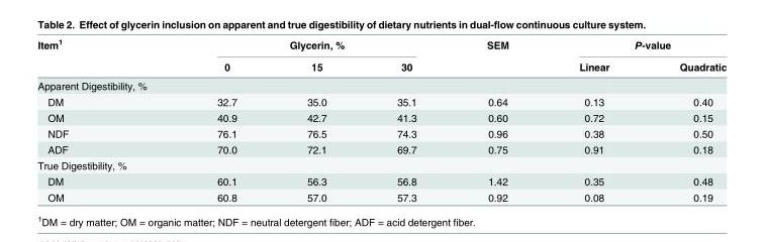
<table><thead><tr><td rowspan="2">Item<sup>1</sup></td><td colspan="3">Glycerin, %</td><td rowspan="2">SEM</td><td colspan="2">P-value</td></tr><tr><td>0</td><td>15</td><td>30</td><td>Linear</td><td>Quadratic</td></tr></thead><tbody><tr><td colspan="7">Apparent Digestibility, %</td></tr><tr><td>DM</td><td>32.7</td><td>35.0</td><td>35.1</td><td>0.64</td><td>0.13</td><td>0.40</td></tr><tr><td>OM</td><td>40.9</td><td>42.7</td><td>41.3</td><td>0.60</td><td>0.72</td><td>0.15</td></tr><tr><td>NDF</td><td>76.1</td><td>76.5</td><td>74.3</td><td>0.96</td><td>0.38</td><td>0.50</td></tr><tr><td>ADF</td><td>70.0</td><td>72.1</td><td>69.7</td><td>0.75</td><td>0.91</td><td>0.18</td></tr><tr><td colspan="7">True Digestibility, %</td></tr><tr><td>DM</td><td>60.1</td><td>56.3</td><td>56.8</td><td>1.42</td><td>0.35</td><td>0.48</td></tr><tr><td>OM</td><td>60.8</td><td>57.0</td><td>57.3</td><td>0.92</td><td>0.08</td><td>0.19</td></tr></tbody></table>